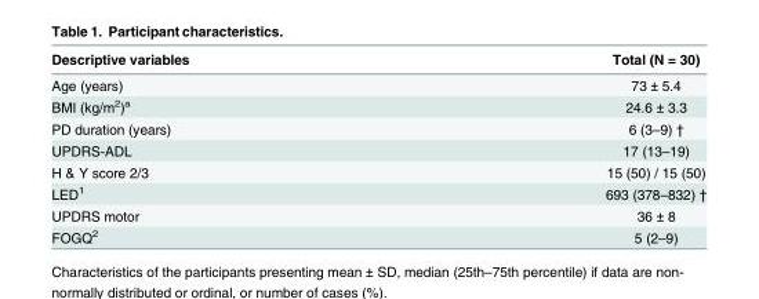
<table><thead><tr><td>Descriptive variables</td><td>Total (N = 30)</td></tr></thead><tbody><tr><td>Age (years)</td><td>73 ± 5.4</td></tr><tr><td>BMI (kg/m<sup>2</sup>)<sup>a</sup></td><td>24.6 ± 3.3</td></tr><tr><td>PD duration (years)</td><td>6 (3–9) †</td></tr><tr><td>UPDRS-ADL</td><td>17 (13–19)</td></tr><tr><td>H &amp; Y score 2/3</td><td>15 (50) / 15 (50)</td></tr><tr><td>LED<sup>1</sup></td><td>693 (378–832) †</td></tr><tr><td>UPDRS motor</td><td>36 ± 8</td></tr><tr><td>FOGQ<sup>2</sup></td><td>5 (2–9)</td></tr></tbody></table>